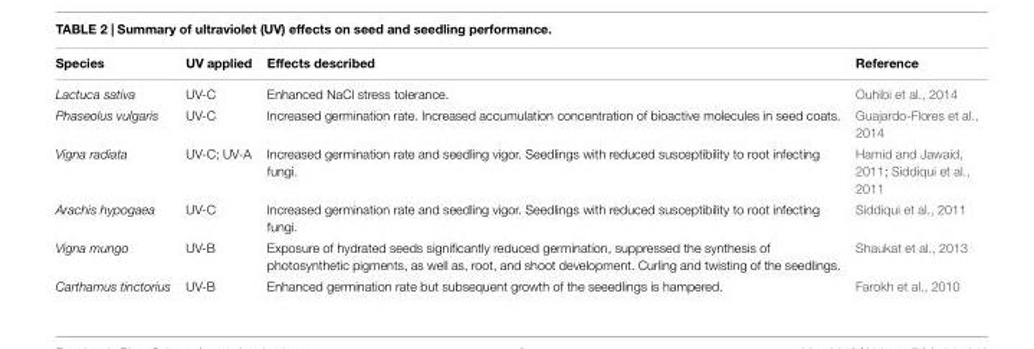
<table><thead><tr><td>Species</td><td>UV applied</td><td>Effects described</td><td>Reference</td></tr></thead><tbody><tr><td>Lactuca sativa</td><td>UV-C</td><td>Enhanced NaCl stress tolerance.</td><td>Ouhibi et al., 2014</td></tr><tr><td>Phaseolus vulgaris</td><td>UV-C</td><td>Increased germination rate. Increased accumulation concentration of bioactive molecules in seed coats.</td><td>Guajardo-Flores et al., 2014</td></tr><tr><td>Vigna radiata</td><td>UV-C; UV-A</td><td>Increased germination rate and seedling vigor. Seedlings with reduced susceptibility to root infecting fungi.</td><td>Hamid and Jawaid, 2011; Siddiqui et al., 2011</td></tr><tr><td>Arachis hypogaea</td><td>UV-C</td><td>Increased germination rate and seedling vigor. Seedlings with reduced susceptibility to root infecting fungi.</td><td>Siddiqui et al., 2011</td></tr><tr><td>Vigna mungo</td><td>UV-B</td><td>Exposure of hydrated seeds significantly reduced germination, suppressed the synthesis of photosynthetic pigments, as well as, root, and shoot development. Curling and twisting of the seedlings.</td><td>Shaukat et al., 2013</td></tr><tr><td>Carthamus tinctorius</td><td>UV-B</td><td>Enhanced germination rate but subsequent growth of the seeedlings is hampered.</td><td>Farokh et al., 2010</td></tr></tbody></table>